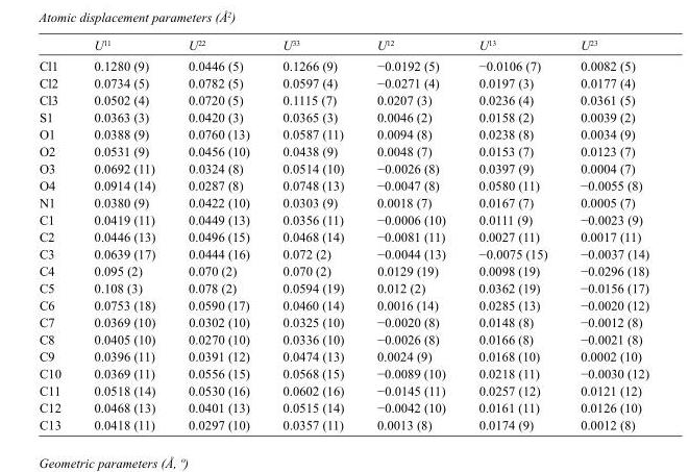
<table><thead><tr><td></td><td>U<sup>11</sup></td><td>U<sup>22</sup></td><td>U<sup>33</sup></td><td>U<sup>12</sup></td><td>U<sup>13</sup></td><td>U<sup>23</sup></td></tr></thead><tbody><tr><td>Cl1</td><td>0.1280 (9)</td><td>0.0446 (5)</td><td>0.1266 (9)</td><td>−0.0192 (5)</td><td>−0.0106 (7)</td><td>0.0082 (5)</td></tr><tr><td>Cl2</td><td>0.0734 (5)</td><td>0.0782 (5)</td><td>0.0597 (4)</td><td>−0.0271 (4)</td><td>0.0197 (3)</td><td>0.0177 (4)</td></tr><tr><td>Cl3</td><td>0.0502 (4)</td><td>0.0720 (5)</td><td>0.1115 (7)</td><td>0.0207 (3)</td><td>0.0236 (4)</td><td>0.0361 (5)</td></tr><tr><td>S1</td><td>0.0363 (3)</td><td>0.0420 (3)</td><td>0.0365 (3)</td><td>0.0046 (2)</td><td>0.0158 (2)</td><td>0.0039 (2)</td></tr><tr><td>O1</td><td>0.0388 (9)</td><td>0.0760 (13)</td><td>0.0587 (11)</td><td>0.0094 (8)</td><td>0.0238 (8)</td><td>0.0034 (9)</td></tr><tr><td>O2</td><td>0.0531 (9)</td><td>0.0456 (10)</td><td>0.0438 (9)</td><td>0.0048 (7)</td><td>0.0153 (7)</td><td>0.0123 (7)</td></tr><tr><td>O3</td><td>0.0692 (11)</td><td>0.0324 (8)</td><td>0.0514 (10)</td><td>−0.0026 (8)</td><td>0.0397 (9)</td><td>0.0004 (7)</td></tr><tr><td>O4</td><td>0.0914 (14)</td><td>0.0287 (8)</td><td>0.0748 (13)</td><td>−0.0047 (8)</td><td>0.0580 (11)</td><td>−0.0055 (8)</td></tr><tr><td>N1</td><td>0.0380 (9)</td><td>0.0422 (10)</td><td>0.0303 (9)</td><td>0.0018 (7)</td><td>0.0167 (7)</td><td>0.0005 (7)</td></tr><tr><td>C1</td><td>0.0419 (11)</td><td>0.0449 (13)</td><td>0.0356 (11)</td><td>−0.0006 (10)</td><td>0.0111 (9)</td><td>−0.0023 (9)</td></tr><tr><td>C2</td><td>0.0446 (13)</td><td>0.0496 (15)</td><td>0.0468 (14)</td><td>−0.0081 (11)</td><td>0.0027 (11)</td><td>0.0017 (11)</td></tr><tr><td>C3</td><td>0.0639 (17)</td><td>0.0444 (16)</td><td>0.072 (2)</td><td>−0.0044 (13)</td><td>−0.0075 (15)</td><td>−0.0037 (14)</td></tr><tr><td>C4</td><td>0.095 (2)</td><td>0.070 (2)</td><td>0.070 (2)</td><td>0.0129 (19)</td><td>0.0098 (19)</td><td>−0.0296 (18)</td></tr><tr><td>C5</td><td>0.108 (3)</td><td>0.078 (2)</td><td>0.0594 (19)</td><td>0.012 (2)</td><td>0.0362 (19)</td><td>−0.0156 (17)</td></tr><tr><td>C6</td><td>0.0753 (18)</td><td>0.0590 (17)</td><td>0.0460 (14)</td><td>0.0016 (14)</td><td>0.0285 (13)</td><td>−0.0020 (12)</td></tr><tr><td>C7</td><td>0.0369 (10)</td><td>0.0302 (10)</td><td>0.0325 (10)</td><td>−0.0020 (8)</td><td>0.0148 (8)</td><td>−0.0012 (8)</td></tr><tr><td>C8</td><td>0.0405 (10)</td><td>0.0270 (10)</td><td>0.0336 (10)</td><td>−0.0026 (8)</td><td>0.0166 (8)</td><td>−0.0021 (8)</td></tr><tr><td>C9</td><td>0.0396 (11)</td><td>0.0391 (12)</td><td>0.0474 (13)</td><td>0.0024 (9)</td><td>0.0168 (10)</td><td>0.0002 (10)</td></tr><tr><td>C10</td><td>0.0369 (11)</td><td>0.0556 (15)</td><td>0.0568 (15)</td><td>−0.0089 (10)</td><td>0.0218 (11)</td><td>−0.0030 (12)</td></tr><tr><td>C11</td><td>0.0518 (14)</td><td>0.0530 (16)</td><td>0.0602 (16)</td><td>−0.0145 (11)</td><td>0.0257 (12)</td><td>0.0121 (12)</td></tr><tr><td>C12</td><td>0.0468 (13)</td><td>0.0401 (13)</td><td>0.0515 (14)</td><td>−0.0042 (10)</td><td>0.0161 (11)</td><td>0.0126 (10)</td></tr><tr><td>C13</td><td>0.0418 (11)</td><td>0.0297 (10)</td><td>0.0357 (11)</td><td>0.0013 (8)</td><td>0.0174 (9)</td><td>0.0012 (8)</td></tr></tbody></table>